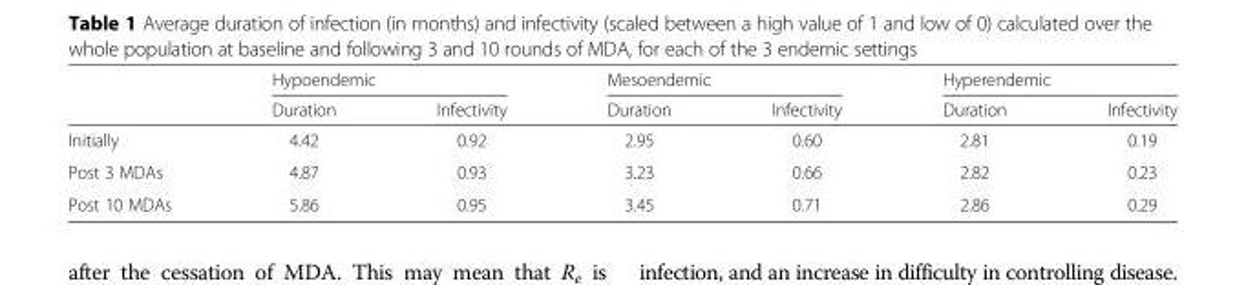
<table><thead><tr><td rowspan="2"></td><td colspan="2">Hypoendemic</td><td colspan="2">Mesoendemic</td><td colspan="2">Hyperendemic</td></tr><tr><td>Duration</td><td>Infectivity</td><td>Duration</td><td>Infectivity</td><td>Duration</td><td>Infectivity</td></tr></thead><tbody><tr><td>Initially</td><td>4.42</td><td>0.92</td><td>2.95</td><td>0.60</td><td>2.81</td><td>0.19</td></tr><tr><td>Post 3 MDAs</td><td>4.87</td><td>0.93</td><td>3.23</td><td>0.66</td><td>2.82</td><td>0.23</td></tr><tr><td>Post 10 MDAs</td><td>5.86</td><td>0.95</td><td>3.45</td><td>0.71</td><td>2.86</td><td>0.29</td></tr></tbody></table>